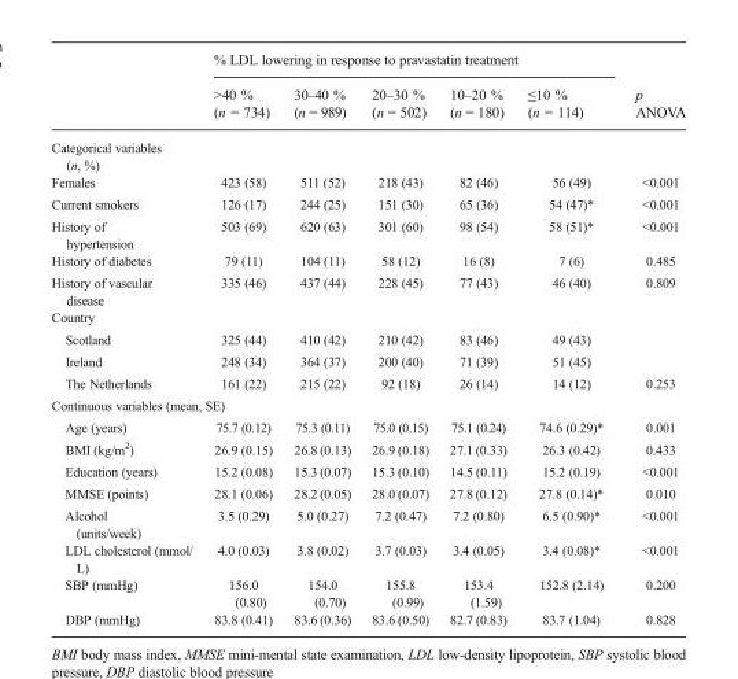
<table><thead><tr><td rowspan="2"></td><td colspan="5">% LDL lowering in response to pravastatin treatment</td><td rowspan="2">p ANOVA</td></tr><tr><td>&gt;40 % (n = 734)</td><td>30–40 % (n = 989)</td><td>20–30 % (n = 502)</td><td>10–20 % (n = 180)</td><td>≤10 % (n = 114)</td></tr></thead><tbody><tr><td colspan="7">Categorical variables (n, %)</td></tr><tr><td>Females</td><td>423 (58)</td><td>511 (52)</td><td>218 (43)</td><td>82 (46)</td><td>56 (49)</td><td>&lt;0.001</td></tr><tr><td>Current smokers</td><td>126 (17)</td><td>244 (25)</td><td>151 (30)</td><td>65 (36)</td><td>54 (47)*</td><td>&lt;0.001</td></tr><tr><td>History of hypertension</td><td>503 (69)</td><td>620 (63)</td><td>301 (60)</td><td>98 (54)</td><td>58 (51)*</td><td>&lt;0.001</td></tr><tr><td>History of diabetes</td><td>79 (11)</td><td>104 (11)</td><td>58 (12)</td><td>16 (8)</td><td>7 (6)</td><td>0.485</td></tr><tr><td>History of vascular disease</td><td>335 (46)</td><td>437 (44)</td><td>228 (45)</td><td>77 (43)</td><td>46 (40)</td><td>0.809</td></tr><tr><td colspan="7">Country</td></tr><tr><td>Scotland</td><td>325 (44)</td><td>410 (42)</td><td>210 (42)</td><td>83 (46)</td><td>49 (43)</td><td></td></tr><tr><td>Ireland</td><td>248 (34)</td><td>364 (37)</td><td>200 (40)</td><td>71 (39)</td><td>51 (45)</td><td></td></tr><tr><td>The Netherlands</td><td>161 (22)</td><td>215 (22)</td><td>92 (18)</td><td>26 (14)</td><td>14 (12)</td><td>0.253</td></tr><tr><td colspan="7">Continuous variables (mean, SE)</td></tr><tr><td>Age (years)</td><td>75.7 (0.12)</td><td>75.3 (0.11)</td><td>75.0 (0.15)</td><td>75.1 (0.24)</td><td>74.6 (0.29)*</td><td>0.001</td></tr><tr><td>BMI (kg/m<sup>2</sup>)</td><td>26.9 (0.15)</td><td>26.8 (0.13)</td><td>26.9 (0.18)</td><td>27.1 (0.33)</td><td>26.3 (0.42)</td><td>0.433</td></tr><tr><td>Education (years)</td><td>15.2 (0.08)</td><td>15.3 (0.07)</td><td>15.3 (0.10)</td><td>14.5 (0.11)</td><td>15.2 (0.19)</td><td>&lt;0.001</td></tr><tr><td>MMSE (points)</td><td>28.1 (0.06)</td><td>28.2 (0.05)</td><td>28.0 (0.07)</td><td>27.8 (0.12)</td><td>27.8 (0.14)*</td><td>0.010</td></tr><tr><td>Alcohol (units/week)</td><td>3.5 (0.29)</td><td>5.0 (0.27)</td><td>7.2 (0.47)</td><td>7.2 (0.80)</td><td>6.5 (0.90)*</td><td>&lt;0.001</td></tr><tr><td>LDL cholesterol (mmol/ L)</td><td>4.0 (0.03)</td><td>3.8 (0.02)</td><td>3.7 (0.03)</td><td>3.4 (0.05)</td><td>3.4 (0.08)*</td><td>&lt;0.001</td></tr><tr><td>SBP (mmHg)</td><td>156.0 (0.80)</td><td>154.0 (0.70)</td><td>155.8 (0.99)</td><td>153.4 (1.59)</td><td>152.8 (2.14)</td><td>0.200</td></tr><tr><td>DBP (mmHg)</td><td>83.8 (0.41)</td><td>83.6 (0.36)</td><td>83.6 (0.50)</td><td>82.7 (0.83)</td><td>83.7 (1.04)</td><td>0.828</td></tr></tbody></table>